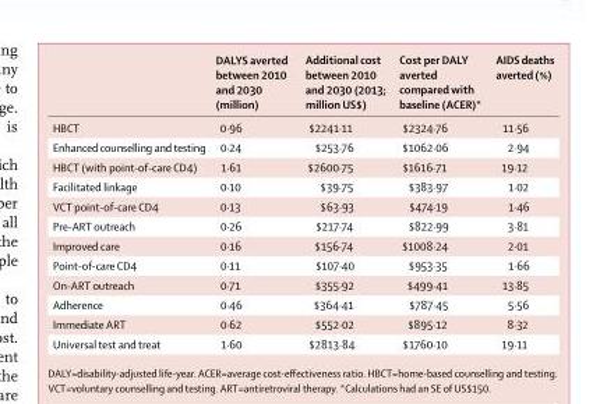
<table><thead><tr><td></td><td>DALYS averted between 2010 and 2030 (million)</td><td>Additional cost between 2010 and 2030 (2013; million US$)</td><td>Cost per DALY averted compared with baseline (ACER)*</td><td>AIDS deaths averted (%)</td></tr></thead><tbody><tr><td>HBCT</td><td>0·96</td><td>$2241·11</td><td>$2324·76</td><td>11·56</td></tr><tr><td>Enhanced counselling and testing</td><td>0·24</td><td>$253·76</td><td>$1062·06</td><td>2·94</td></tr><tr><td>HBCT (with point-of-care CD4)</td><td>1·61</td><td>$2600·75</td><td>$1616·71</td><td>19·12</td></tr><tr><td>Facilitated linkage</td><td>0·10</td><td>$39·75</td><td>$383·97</td><td>1·02</td></tr><tr><td>VCT point-of-care CD4</td><td>0·13</td><td>$63·93</td><td>$474·19</td><td>1·46</td></tr><tr><td>Pre-ART outreach</td><td>0·26</td><td>$217·74</td><td>$822·99</td><td>3·81</td></tr><tr><td>Improved care</td><td>0·16</td><td>$156·74</td><td>$1008·24</td><td>2·01</td></tr><tr><td>Point-of-care CD4</td><td>0·11</td><td>$107·40</td><td>$953·35</td><td>1·66</td></tr><tr><td>On-ART outreach</td><td>0·71</td><td>$355·92</td><td>$499·41</td><td>13·85</td></tr><tr><td>Adherence</td><td>0·46</td><td>$364·41</td><td>$787·45</td><td>5·56</td></tr><tr><td>Immediate ART</td><td>0·62</td><td>$552·02</td><td>$895·12</td><td>8·32</td></tr><tr><td>Universal test and treat</td><td>1·60</td><td>$2813·84</td><td>$1760·10</td><td>19·11</td></tr></tbody></table>